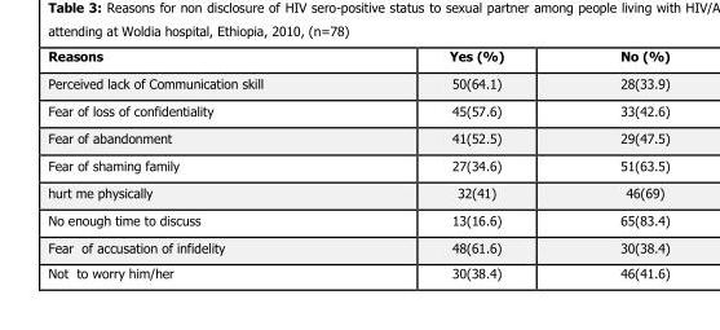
<table><thead><tr><td>Reasons</td><td>Yes (%)</td><td>No (%)</td></tr></thead><tbody><tr><td>Perceived lack of Communication skill</td><td>50(64.1)</td><td>28(33.9)</td></tr><tr><td>Fear of loss of confidentiality</td><td>45(57.6)</td><td>33(42.6)</td></tr><tr><td>Fear of abandonment</td><td>41(52.5)</td><td>29(47.5)</td></tr><tr><td>Fear of shaming family</td><td>27(34.6)</td><td>51(63.5)</td></tr><tr><td>hurt me physically</td><td>32(41)</td><td>46(69)</td></tr><tr><td>No enough time to discuss</td><td>13(16.6)</td><td>65(83.4)</td></tr><tr><td>Fear of accusation of infidelity</td><td>48(61.6)</td><td>30(38.4)</td></tr><tr><td>Not to worry him/her</td><td>30(38.4)</td><td>46(41.6)</td></tr></tbody></table>